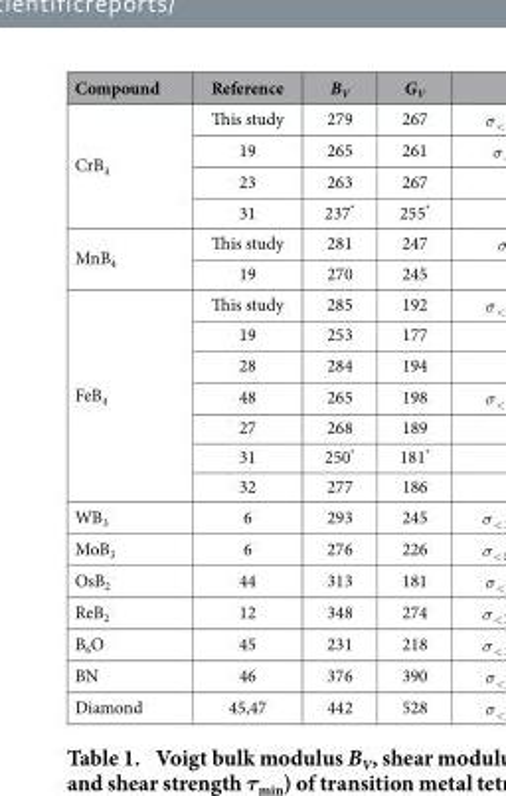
<table><thead><tr><td>Compound</td><td>Reference</td><td>B<sub>V</sub></td><td>G<sub>V</sub></td></tr></thead><tbody><tr><td rowspan="4">CrB<sub>4</sub></td><td>This study</td><td>279</td><td>267</td></tr><tr><td>19</td><td>265</td><td>261</td></tr><tr><td>23</td><td>263</td><td>267</td></tr><tr><td>31</td><td>237*</td><td>255*</td></tr><tr><td rowspan="2">MnB<sub>4</sub></td><td>This study</td><td>281</td><td>247</td></tr><tr><td>19</td><td>270</td><td>245</td></tr><tr><td rowspan="7">FeB<sub>4</sub></td><td>This study</td><td>285</td><td>192</td></tr><tr><td>19</td><td>253</td><td>177</td></tr><tr><td>28</td><td>284</td><td>194</td></tr><tr><td>48</td><td>265</td><td>198</td></tr><tr><td>27</td><td>268</td><td>189</td></tr><tr><td>31</td><td>250*</td><td>181*</td></tr><tr><td>32</td><td>277</td><td>186</td></tr><tr><td>WB<sub>3</sub></td><td>6</td><td>293</td><td>245</td></tr><tr><td>MoB<sub>3</sub></td><td>6</td><td>276</td><td>226</td></tr><tr><td>OsB<sub>2</sub></td><td>44</td><td>313</td><td>181</td></tr><tr><td>ReB<sub>2</sub></td><td>12</td><td>348</td><td>274</td></tr><tr><td>B<sub>6</sub>O</td><td>45</td><td>231</td><td>218</td></tr><tr><td>BN</td><td>46</td><td>376</td><td>390</td></tr><tr><td>Diamond</td><td>45,47</td><td>442</td><td>528</td></tr></tbody></table>